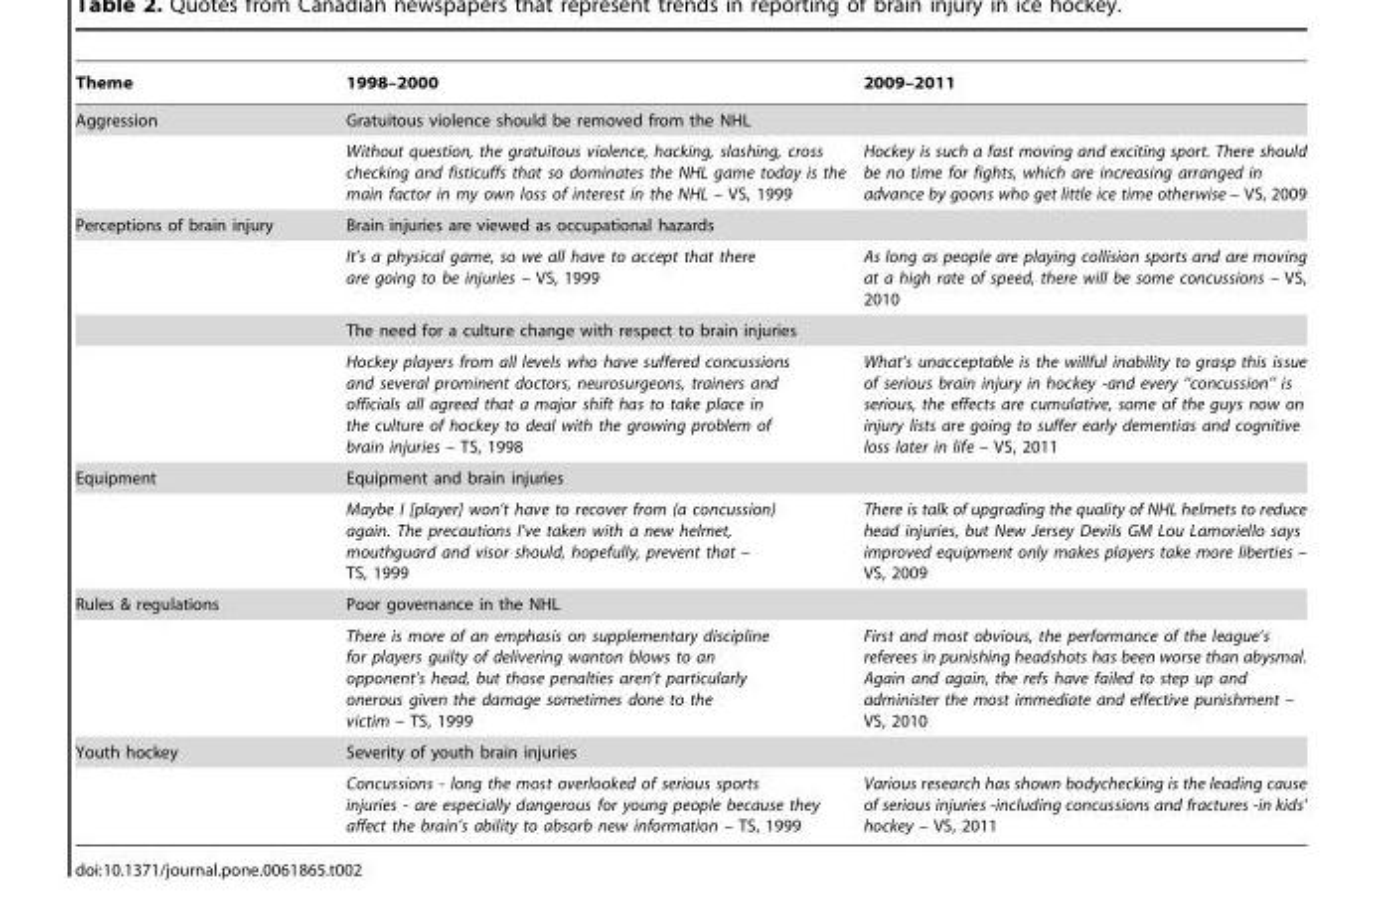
<table><thead><tr><td>Theme</td><td>1998–2000</td><td>2009–2011</td></tr></thead><tbody><tr><td rowspan="2">Aggression</td><td colspan="2">Gratuitous violence should be removed from the NHL</td></tr><tr><td>Without question, the gratuitous violence, hacking, slashing, cross checking and fisticuffs that so dominates the NHL game today is the main factor in my own loss of interest in the NHL – VS, 1999</td><td>Hockey is such a fast moving and exciting sport. There should be no time for fights, which are increasing arranged in advance by goons who get little ice time otherwise – VS, 2009</td></tr><tr><td rowspan="4">Perceptions of brain injury</td><td colspan="2">Brain injuries are viewed as occupational hazards</td></tr><tr><td>It’s a physical game, so we all have to accept that there are going to be injuries – VS, 1999</td><td>As long as people are playing collision sports and are moving at a high rate of speed, there will be some concussions – VS, 2010</td></tr><tr><td colspan="2">The need for a culture change with respect to brain injuries</td></tr><tr><td>Hockey players from all levels who have suffered concussions and several prominent doctors, neurosurgeons, trainers and officials all agreed that a major shift has to take place in the culture of hockey to deal with the growing problem of brain injuries – TS, 1998</td><td>What’s unacceptable is the willful inability to grasp this issue of serious brain injury in hockey -and every ‘‘concussion’’ is serious, the effects are cumulative, some of the guys now on injury lists are going to suffer early dementias and cognitive loss later in life – VS, 2011</td></tr><tr><td rowspan="2">Equipment</td><td colspan="2">Equipment and brain injuries</td></tr><tr><td>Maybe I [player] won’t have to recover from (a concussion) again. The precautions I’ve taken with a new helmet, mouthguard and visor should, hopefully, prevent that – TS, 1999</td><td>There is talk of upgrading the quality of NHL helmets to reduce head injuries, but New Jersey Devils GM Lou Lamoriello says improved equipment only makes players take more liberties – VS, 2009</td></tr><tr><td rowspan="2">Rules &amp; regulations</td><td colspan="2">Poor governance in the NHL</td></tr><tr><td>There is more of an emphasis on supplementary discipline for players guilty of delivering wanton blows to an opponent’s head, but those penalties aren’t particularly onerous given the damage sometimes done to the victim – TS, 1999</td><td>First and most obvious, the performance of the league’s referees in punishing headshots has been worse than abysmal. Again and again, the refs have failed to step up and administer the most immediate and effective punishment – VS, 2010</td></tr><tr><td rowspan="2">Youth hockey</td><td colspan="2">Severity of youth brain injuries</td></tr><tr><td>Concussions - long the most overlooked of serious sports injuries - are especially dangerous for young people because they affect the brain’s ability to absorb new information – TS, 1999</td><td>Various research has shown bodychecking is the leading cause of serious injuries -including concussions and fractures -in kids’ hockey – VS, 2011</td></tr></tbody></table>